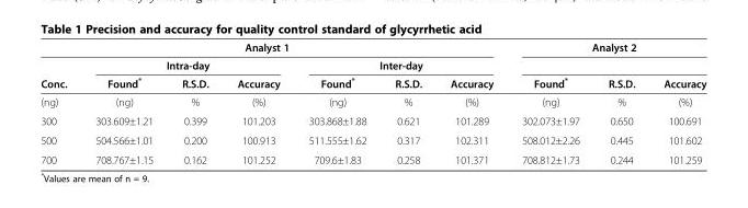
<table><thead><tr><td colspan="7">Analyst 1</td><td colspan="3">Analyst 2</td></tr><tr><td rowspan="2">Conc.</td><td colspan="3">Intra-day</td><td colspan="3">Inter-day</td><td rowspan="2">Found*</td><td rowspan="2">R.S.D.</td><td rowspan="2">Accuracy</td></tr><tr><td>Found*</td><td>R.S.D.</td><td>Accuracy</td><td>Found*</td><td>R.S.D.</td><td>Accuracy</td></tr></thead><tbody><tr><td>(ng)</td><td>(ng)</td><td>%</td><td>(%)</td><td>(ng)</td><td>%</td><td>(%)</td><td>(ng)</td><td>%</td><td>(%)</td></tr><tr><td>300</td><td>303.609±1.21</td><td>0.399</td><td>101.203</td><td>303.868±1.88</td><td>0.621</td><td>101.289</td><td>302.073±1.97</td><td>0.650</td><td>100.691</td></tr><tr><td>500</td><td>504.566±1.01</td><td>0.200</td><td>100.913</td><td>511.555±1.62</td><td>0.317</td><td>102.311</td><td>508.012±2.26</td><td>0.445</td><td>101.602</td></tr><tr><td>700</td><td>708.767±1.15</td><td>0.162</td><td>101.252</td><td>709.6±1.83</td><td>0.258</td><td>101.371</td><td>708.812±1.73</td><td>0.244</td><td>101.259</td></tr></tbody></table>